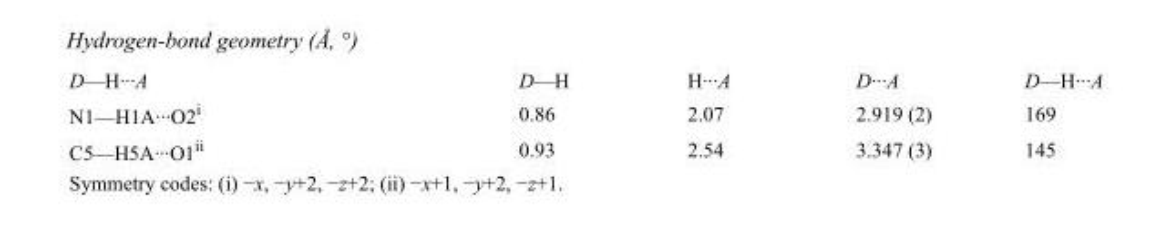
<table><tbody><tr><td>D—H···A</td><td>D—H</td><td>H···A</td><td>D···A</td><td>D—H···A</td></tr><tr><td>N1—H1A···O2<sup>i</sup></td><td>0.86</td><td>2.07</td><td>2.919 (2)</td><td>169</td></tr><tr><td>C5—H5A···O1<sup>ii</sup></td><td>0.93</td><td>2.54</td><td>3.347 (3)</td><td>145</td></tr></tbody></table>